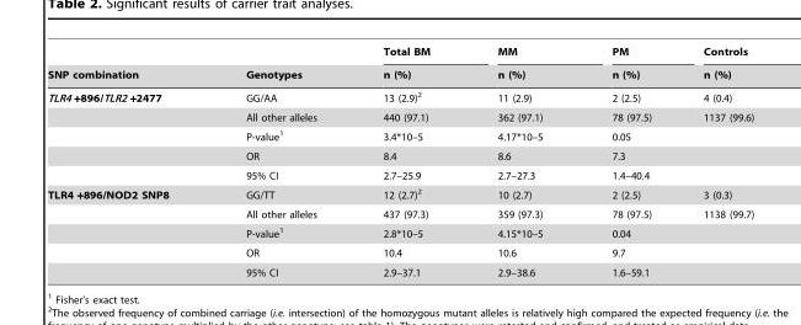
<table><thead><tr><td rowspan="2">SNP combination</td><td rowspan="2">Genotypes</td><td rowspan="2">Total BM n (%)</td><td rowspan="2">MM n (%)</td><td rowspan="2">PM n (%)</td><td rowspan="2">Controls n (%)</td></tr><tr></tr></thead><tbody><tr><td rowspan="5">TLR4 +896/TLR2 +2477</td><td>GG/AA</td><td>13 (2.9)<sup>2</sup></td><td>11 (2.9)</td><td>2 (2.5)</td><td>4 (0.4)</td></tr><tr><td>All other alleles</td><td>440 (97.1)</td><td>362 (97.1)</td><td>78 (97.5)</td><td>1137 (99.6)</td></tr><tr><td>P-value<sup>1</sup></td><td>3.4*10–5</td><td>4.17*10–5</td><td>0.05</td><td></td></tr><tr><td>OR</td><td>8.4</td><td>8.6</td><td>7.3</td><td></td></tr><tr><td>95% CI</td><td>2.7–25.9</td><td>2.7–27.3</td><td>1.4–40.4</td><td></td></tr><tr><td rowspan="5">TLR4 +896/NOD2 SNP8</td><td>GG/TT</td><td>12 (2.7)<sup>2</sup></td><td>10 (2.7)</td><td>2 (2.5)</td><td>3 (0.3)</td></tr><tr><td>All other alleles</td><td>437 (97.3)</td><td>359 (97.3)</td><td>78 (97.5)</td><td>1138 (99.7)</td></tr><tr><td>P-value<sup>1</sup></td><td>2.8*10–5</td><td>4.15*10–5</td><td>0.04</td><td></td></tr><tr><td>OR</td><td>10.4</td><td>10.6</td><td>9.7</td><td></td></tr><tr><td>95% CI</td><td>2.9–37.1</td><td>2.9–38.6</td><td>1.6–59.1</td><td></td></tr></tbody></table>